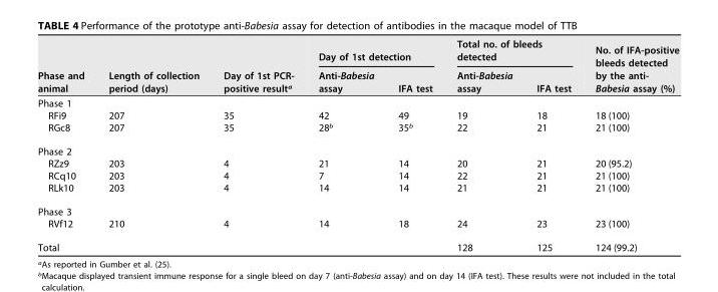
<table><thead><tr><td rowspan="2">Phase and animal</td><td rowspan="2">Length of collection period (days)</td><td rowspan="2">Day of 1st PCR- positive result<sup>a</sup></td><td colspan="2">Day of 1st detection</td><td colspan="2">Total no. of bleeds detected</td><td rowspan="2">No. of IFA-positive bleeds detected by the anti- Babesia assay (%)</td></tr><tr><td>Anti-Babesia assay</td><td>IFA test</td><td>Anti-Babesia assay</td><td>IFA test</td></tr></thead><tbody><tr><td colspan="8">Phase 1</td></tr><tr><td>RFi9</td><td>207</td><td>35</td><td>42</td><td>49</td><td>19</td><td>18</td><td>18 (100)</td></tr><tr><td>RGc8</td><td>207</td><td>35</td><td>28<sup>b</sup></td><td>35<sup>b</sup></td><td>22</td><td>21</td><td>21 (100)</td></tr><tr><td colspan="8">Phase 2</td></tr><tr><td>RZz9</td><td>203</td><td>4</td><td>21</td><td>14</td><td>20</td><td>21</td><td>20 (95.2)</td></tr><tr><td>RCq10</td><td>203</td><td>4</td><td>7</td><td>14</td><td>22</td><td>21</td><td>21 (100)</td></tr><tr><td>RLk10</td><td>203</td><td>4</td><td>14</td><td>14</td><td>21</td><td>21</td><td>21 (100)</td></tr><tr><td colspan="8">Phase 3</td></tr><tr><td>RVf12</td><td>210</td><td>4</td><td>14</td><td>18</td><td>24</td><td>23</td><td>23 (100)</td></tr><tr><td>Total</td><td></td><td></td><td></td><td></td><td>128</td><td>125</td><td>124 (99.2)</td></tr></tbody></table>